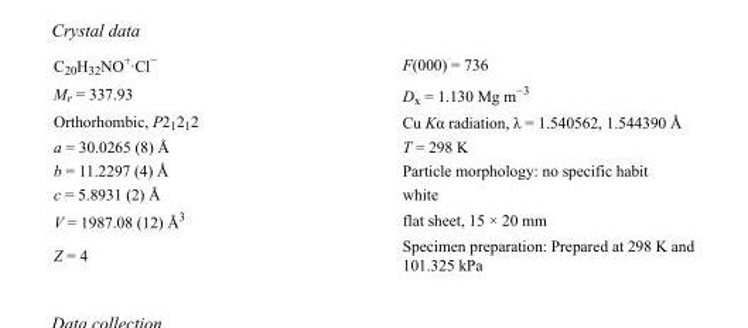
<table><tbody><tr><td>C<sub>20</sub>H<sub>32</sub>NO<sup>+</sup>·Cl<sup>−</sup></td><td>F(000) = 736</td></tr><tr><td>M<sub>r</sub> = 337.93</td><td>D<sub>x</sub> = 1.130 Mg m<sup>−3</sup></td></tr><tr><td>Orthorhombic, P2<sub>1</sub>2<sub>1</sub>2</td><td>Cu Kα radiation, λ = 1.540562, 1.544390 Å</td></tr><tr><td>a = 30.0265 (8) Å</td><td>T = 298 K</td></tr><tr><td>b = 11.2297 (4) Å</td><td>Particle morphology: no specific habit</td></tr><tr><td>c = 5.8931 (2) Å</td><td>white</td></tr><tr><td>V = 1987.08 (12) Å<sup>3</sup></td><td>flat sheet, 15 × 20 mm</td></tr><tr><td>Z = 4</td><td>Specimen preparation: Prepared at 298 K and 101.325 kPa</td></tr></tbody></table>